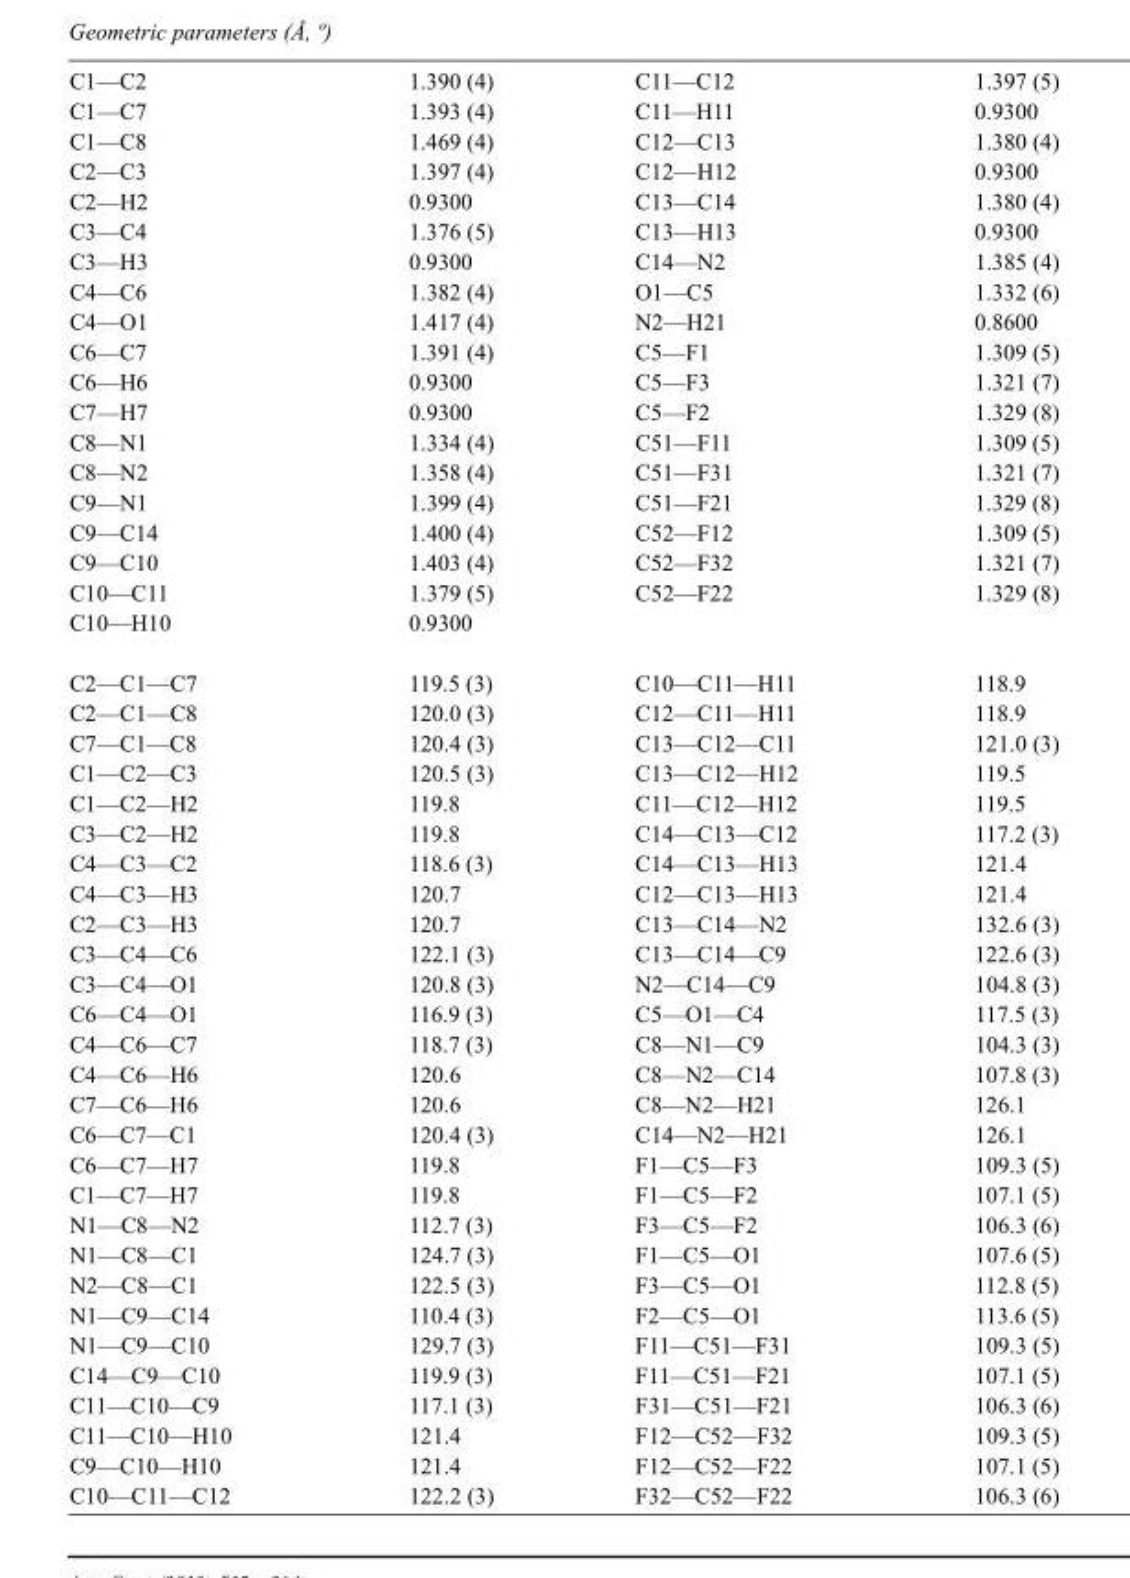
<table><tbody><tr><td>C1—C2</td><td>1.390 (4)</td><td>C11—C12</td><td>1.397 (5)</td></tr><tr><td>C1—C7</td><td>1.393 (4)</td><td>C11—H11</td><td>0.9300</td></tr><tr><td>C1—C8</td><td>1.469 (4)</td><td>C12—C13</td><td>1.380 (4)</td></tr><tr><td>C2—C3</td><td>1.397 (4)</td><td>C12—H12</td><td>0.9300</td></tr><tr><td>C2—H2</td><td>0.9300</td><td>C13—C14</td><td>1.380 (4)</td></tr><tr><td>C3—C4</td><td>1.376 (5)</td><td>C13—H13</td><td>0.9300</td></tr><tr><td>C3—H3</td><td>0.9300</td><td>C14—N2</td><td>1.385 (4)</td></tr><tr><td>C4—C6</td><td>1.382 (4)</td><td>O1—C5</td><td>1.332 (6)</td></tr><tr><td>C4—O1</td><td>1.417 (4)</td><td>N2—H21</td><td>0.8600</td></tr><tr><td>C6—C7</td><td>1.391 (4)</td><td>C5—F1</td><td>1.309 (5)</td></tr><tr><td>C6—H6</td><td>0.9300</td><td>C5—F3</td><td>1.321 (7)</td></tr><tr><td>C7—H7</td><td>0.9300</td><td>C5—F2</td><td>1.329 (8)</td></tr><tr><td>C8—N1</td><td>1.334 (4)</td><td>C51—F11</td><td>1.309 (5)</td></tr><tr><td>C8—N2</td><td>1.358 (4)</td><td>C51—F31</td><td>1.321 (7)</td></tr><tr><td>C9—N1</td><td>1.399 (4)</td><td>C51—F21</td><td>1.329 (8)</td></tr><tr><td>C9—C14</td><td>1.400 (4)</td><td>C52—F12</td><td>1.309 (5)</td></tr><tr><td>C9—C10</td><td>1.403 (4)</td><td>C52—F32</td><td>1.321 (7)</td></tr><tr><td>C10—C11</td><td>1.379 (5)</td><td>C52—F22</td><td>1.329 (8)</td></tr><tr><td>C10—H10</td><td>0.9300</td><td></td><td></td></tr><tr><td>C2—C1—C7</td><td>119.5 (3)</td><td>C10—C11—H11</td><td>118.9</td></tr><tr><td>C2—C1—C8</td><td>120.0 (3)</td><td>C12—C11—H11</td><td>118.9</td></tr><tr><td>C7—C1—C8</td><td>120.4 (3)</td><td>C13—C12—C11</td><td>121.0 (3)</td></tr><tr><td>C1—C2—C3</td><td>120.5 (3)</td><td>C13—C12—H12</td><td>119.5</td></tr><tr><td>C1—C2—H2</td><td>119.8</td><td>C11—C12—H12</td><td>119.5</td></tr><tr><td>C3—C2—H2</td><td>119.8</td><td>C14—C13—C12</td><td>117.2 (3)</td></tr><tr><td>C4—C3—C2</td><td>118.6 (3)</td><td>C14—C13—H13</td><td>121.4</td></tr><tr><td>C4—C3—H3</td><td>120.7</td><td>C12—C13—H13</td><td>121.4</td></tr><tr><td>C2—C3—H3</td><td>120.7</td><td>C13—C14—N2</td><td>132.6 (3)</td></tr><tr><td>C3—C4—C6</td><td>122.1 (3)</td><td>C13—C14—C9</td><td>122.6 (3)</td></tr><tr><td>C3—C4—O1</td><td>120.8 (3)</td><td>N2—C14—C9</td><td>104.8 (3)</td></tr><tr><td>C6—C4—O1</td><td>116.9 (3)</td><td>C5—O1—C4</td><td>117.5 (3)</td></tr><tr><td>C4—C6—C7</td><td>118.7 (3)</td><td>C8—N1—C9</td><td>104.3 (3)</td></tr><tr><td>C4—C6—H6</td><td>120.6</td><td>C8—N2—C14</td><td>107.8 (3)</td></tr><tr><td>C7—C6—H6</td><td>120.6</td><td>C8—N2—H21</td><td>126.1</td></tr><tr><td>C6—C7—C1</td><td>120.4 (3)</td><td>C14—N2—H21</td><td>126.1</td></tr><tr><td>C6—C7—H7</td><td>119.8</td><td>F1—C5—F3</td><td>109.3 (5)</td></tr><tr><td>C1—C7—H7</td><td>119.8</td><td>F1—C5—F2</td><td>107.1 (5)</td></tr><tr><td>N1—C8—N2</td><td>112.7 (3)</td><td>F3—C5—F2</td><td>106.3 (6)</td></tr><tr><td>N1—C8—C1</td><td>124.7 (3)</td><td>F1—C5—O1</td><td>107.6 (5)</td></tr><tr><td>N2—C8—C1</td><td>122.5 (3)</td><td>F3—C5—O1</td><td>112.8 (5)</td></tr><tr><td>N1—C9—C14</td><td>110.4 (3)</td><td>F2—C5—O1</td><td>113.6 (5)</td></tr><tr><td>N1—C9—C10</td><td>129.7 (3)</td><td>F11—C51—F31</td><td>109.3 (5)</td></tr><tr><td>C14—C9—C10</td><td>119.9 (3)</td><td>F11—C51—F21</td><td>107.1 (5)</td></tr><tr><td>C11—C10—C9</td><td>117.1 (3)</td><td>F31—C51—F21</td><td>106.3 (6)</td></tr><tr><td>C11—C10—H10</td><td>121.4</td><td>F12—C52—F32</td><td>109.3 (5)</td></tr><tr><td>C9—C10—H10</td><td>121.4</td><td>F12—C52—F22</td><td>107.1 (5)</td></tr><tr><td>C10—C11—C12</td><td>122.2 (3)</td><td>F32—C52—F22</td><td>106.3 (6)</td></tr></tbody></table>